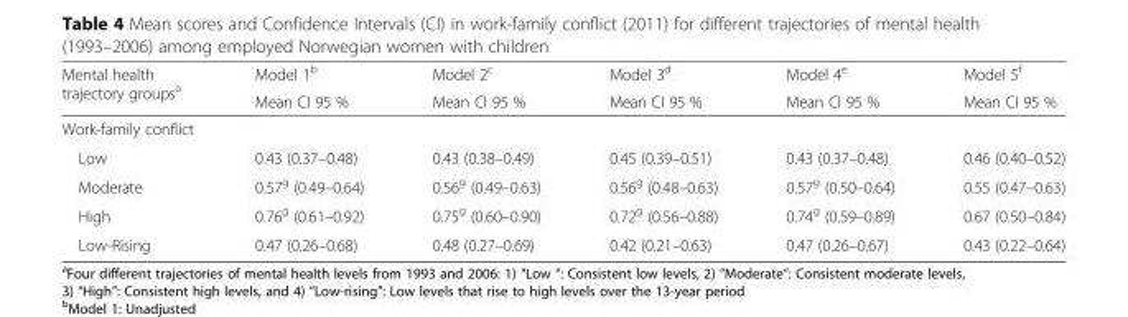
<table><thead><tr><td rowspan="2">Mental health trajectory groups<sup>a</sup></td><td rowspan="2">Model 1<sup>b</sup> Mean CI 95 %</td><td rowspan="2">Model 2<sup>c</sup> Mean CI 95 %</td><td rowspan="2">Model 3<sup>d</sup> Mean CI 95 %</td><td rowspan="2">Model 4<sup>e</sup> Mean CI 95 %</td><td rowspan="2">Model 5<sup>f</sup> Mean CI 95 %</td></tr><tr></tr></thead><tbody><tr><td colspan="6">Work-family conflict</td></tr><tr><td>Low</td><td>0.43 (0.37–0.48)</td><td>0.43 (0.38–0.49)</td><td>0.45 (0.39–0.51)</td><td>0.43 (0.37–0.48)</td><td>0.46 (0.40–0.52)</td></tr><tr><td>Moderate</td><td>0.57<sup>g</sup> (0.49–0.64)</td><td>0.56<sup>g</sup> (0.49–0.63)</td><td>0.56<sup>g</sup> (0.48–0.63)</td><td>0.57<sup>g</sup> (0.50–0.64)</td><td>0.55 (0.47–0.63)</td></tr><tr><td>High</td><td>0.76<sup>g</sup> (0.61–0.92)</td><td>0.75<sup>g</sup> (0.60–0.90)</td><td>0.72<sup>g</sup> (0.56–0.88)</td><td>0.74<sup>g</sup> (0.59–0.89)</td><td>0.67 (0.50–0.84)</td></tr><tr><td>Low-Rising</td><td>0.47 (0.26–0.68)</td><td>0.48 (0.27–0.69)</td><td>0.42 (0.21–0.63)</td><td>0.47 (0.26–0.67)</td><td>0.43 (0.22–0.64)</td></tr></tbody></table>